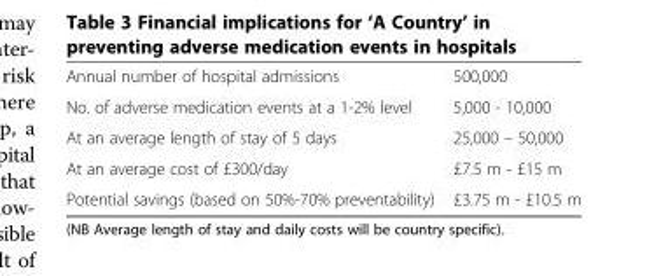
<table><tbody><tr><td>Annual number of hospital admissions</td><td>500,000</td></tr><tr><td>No. of adverse medication events at a 1-2% level</td><td>5,000 - 10,000</td></tr><tr><td>At an average length of stay of 5 days</td><td>25,000 – 50,000</td></tr><tr><td>At an average cost of £300/day</td><td>£7.5 m - £15 m</td></tr><tr><td>Potential savings (based on 50%-70% preventability)</td><td>£3.75 m - £10.5 m</td></tr></tbody></table>